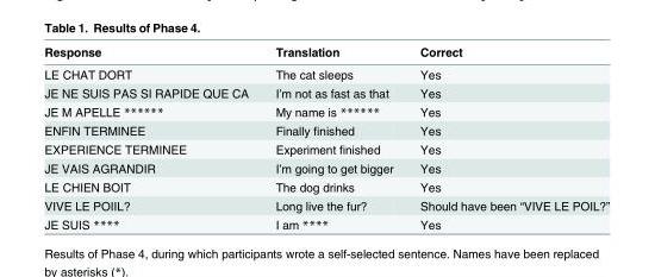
<table><thead><tr><td>Response</td><td>Translation</td><td>Correct</td></tr></thead><tbody><tr><td>LE CHAT DORT</td><td>The cat sleeps</td><td>Yes</td></tr><tr><td>JE NE SUIS PAS SI RAPIDE QUE CA</td><td>I’m not as fast as that</td><td>Yes</td></tr><tr><td>JE M APELLE ******</td><td>My name is ******</td><td>Yes</td></tr><tr><td>ENFIN TERMINEE</td><td>Finally finished</td><td>Yes</td></tr><tr><td>EXPERIENCE TERMINEE</td><td>Experiment finished</td><td>Yes</td></tr><tr><td>JE VAIS AGRANDIR</td><td>I’m going to get bigger</td><td>Yes</td></tr><tr><td>LE CHIEN BOIT</td><td>The dog drinks</td><td>Yes</td></tr><tr><td>VIVE LE POIIL?</td><td>Long live the fur?</td><td>Should have been “VIVE LE POIL?”</td></tr><tr><td>JE SUIS ****</td><td>I am ****</td><td>Yes</td></tr></tbody></table>